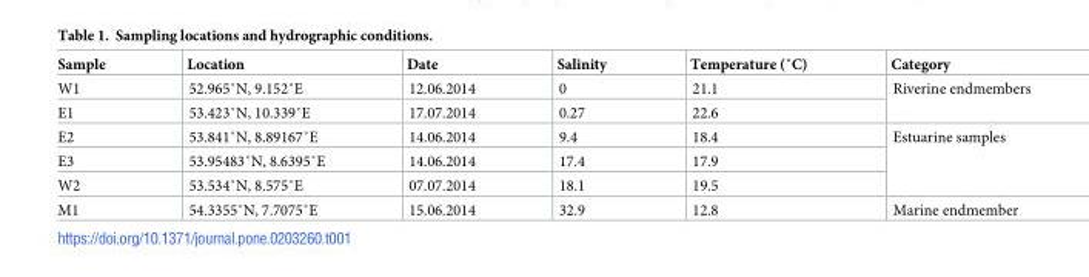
<table><thead><tr><td>Sample</td><td>Location</td><td>Date</td><td>Salinity</td><td>Temperature (˚C)</td><td>Category</td></tr></thead><tbody><tr><td>W1</td><td>52.965˚N, 9.152˚E</td><td>12.06.2014</td><td>0</td><td>21.1</td><td rowspan="2">Riverine endmembers</td></tr><tr><td>E1</td><td>53.423˚N, 10.339˚E</td><td>17.07.2014</td><td>0.27</td><td>22.6</td></tr><tr><td>E2</td><td>53.841˚N, 8.89167˚E</td><td>14.06.2014</td><td>9.4</td><td>18.4</td><td rowspan="3">Estuarine samples</td></tr><tr><td>E3</td><td>53.95483˚N, 8.6395˚E</td><td>14.06.2014</td><td>17.4</td><td>17.9</td></tr><tr><td>W2</td><td>53.534˚N, 8.575˚E</td><td>07.07.2014</td><td>18.1</td><td>19.5</td></tr><tr><td>M1</td><td>54.3355˚N, 7.7075˚E</td><td>15.06.2014</td><td>32.9</td><td>12.8</td><td>Marine endmember</td></tr></tbody></table>